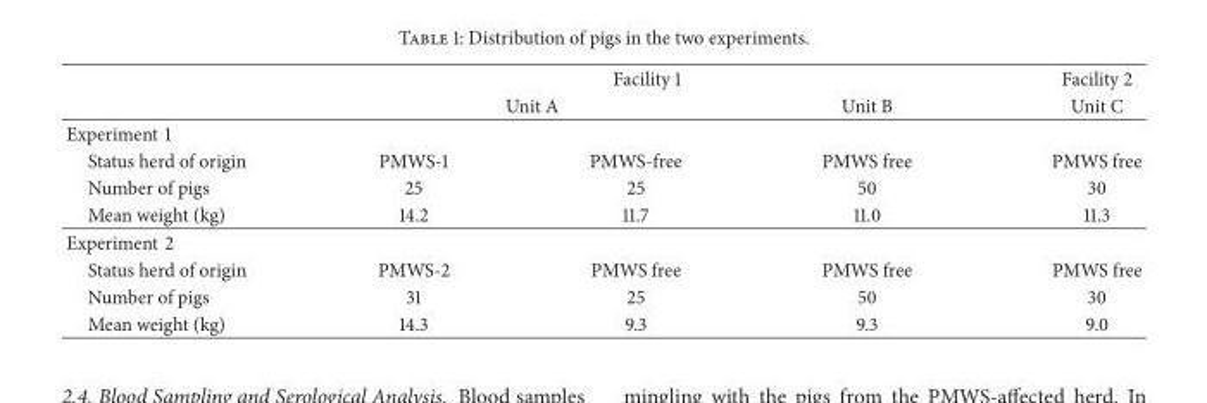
<table><thead><tr><td rowspan="3">Experiment 1</td><td colspan="3">Facility 1</td><td rowspan="3">Facility 2 Unit C</td></tr><tr><td colspan="2">Unit A</td><td rowspan="2">Unit B</td></tr><tr><td></td><td></td></tr></thead><tbody><tr><td>Status herd of origin</td><td>PMWS-1</td><td>PMWS-free</td><td>PMWS free</td><td>PMWS free</td></tr><tr><td>Number of pigs</td><td>25</td><td>25</td><td>50</td><td>30</td></tr><tr><td>Mean weight (kg)</td><td>14.2</td><td>11.7</td><td>11.0</td><td>11.3</td></tr><tr><td colspan="5">Experiment 2</td></tr><tr><td>Status herd of origin</td><td>PMWS-2</td><td>PMWS free</td><td>PMWS free</td><td>PMWS free</td></tr><tr><td>Number of pigs</td><td>31</td><td>25</td><td>50</td><td>30</td></tr><tr><td>Mean weight (kg)</td><td>14.3</td><td>9.3</td><td>9.3</td><td>9.0</td></tr></tbody></table>